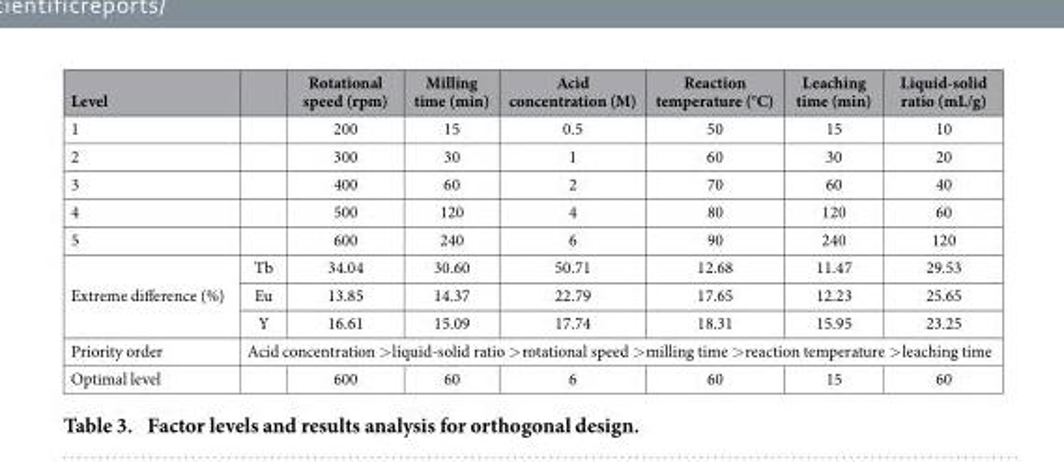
<table><thead><tr><td>Level</td><td></td><td>Rotational speed (rpm)</td><td>Milling time (min)</td><td>Acid concentration (M)</td><td>Reaction temperature (°C)</td><td>Leaching time (min)</td><td>Liquid-solid ratio (mL/g)</td></tr></thead><tbody><tr><td>1</td><td></td><td>200</td><td>15</td><td>0.5</td><td>50</td><td>15</td><td>10</td></tr><tr><td>2</td><td></td><td>300</td><td>30</td><td>1</td><td>60</td><td>30</td><td>20</td></tr><tr><td>3</td><td></td><td>400</td><td>60</td><td>2</td><td>70</td><td>60</td><td>40</td></tr><tr><td>4</td><td></td><td>500</td><td>120</td><td>4</td><td>80</td><td>120</td><td>60</td></tr><tr><td>5</td><td></td><td>600</td><td>240</td><td>6</td><td>90</td><td>240</td><td>120</td></tr><tr><td rowspan="3">Extreme difference (%)</td><td>Tb</td><td>34.04</td><td>30.60</td><td>50.71</td><td>12.68</td><td>11.47</td><td>29.53</td></tr><tr><td>Eu</td><td>13.85</td><td>14.37</td><td>22.79</td><td>17.65</td><td>12.23</td><td>25.65</td></tr><tr><td>Y</td><td>16.61</td><td>15.09</td><td>17.74</td><td>18.31</td><td>15.95</td><td>23.25</td></tr><tr><td>Priority order</td><td colspan="7">Acid concentration &gt; liquid-solid ratio &gt; rotational speed &gt; milling time &gt; reaction temperature &gt; leaching time</td></tr><tr><td>Optimal level</td><td></td><td>600</td><td>60</td><td>6</td><td>60</td><td>15</td><td>60</td></tr></tbody></table>